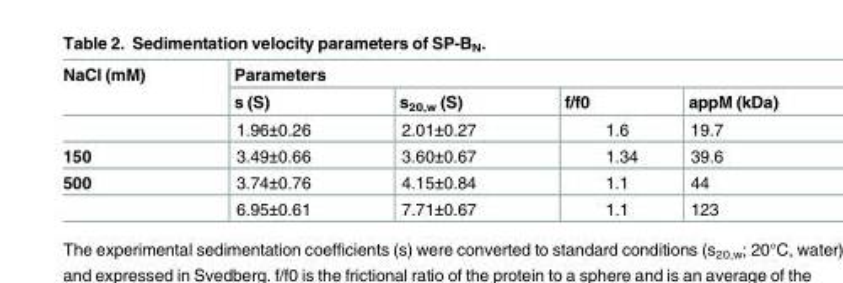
<table><thead><tr><td rowspan="2">NaCl (mM)</td><td colspan="4">Parameters</td></tr><tr><td>s (S)</td><td>s<sub>20,w</sub> (S)</td><td>f/f0</td><td>appM (kDa)</td></tr></thead><tbody><tr><td></td><td>1.96±0.26</td><td>2.01±0.27</td><td>1.6</td><td>19.7</td></tr><tr><td>150</td><td>3.49±0.66</td><td>3.60±0.67</td><td>1.34</td><td>39.6</td></tr><tr><td rowspan="2">500</td><td>3.74±0.76</td><td>4.15±0.84</td><td>1.1</td><td>44</td></tr><tr><td>6.95±0.61</td><td>7.71±0.67</td><td>1.1</td><td>123</td></tr></tbody></table>